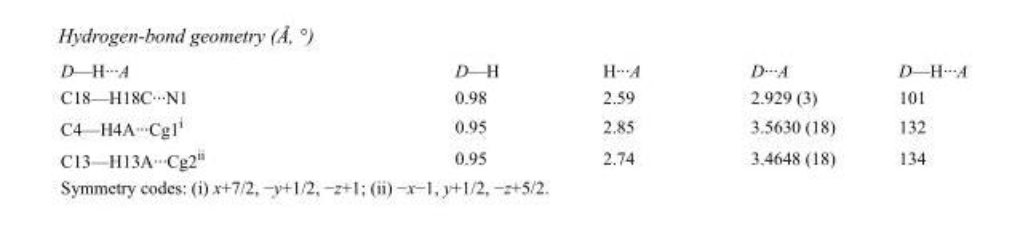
<table><tbody><tr><td>D—H···A</td><td>D—H</td><td>H···A</td><td>D···A</td><td>D—H···A</td></tr><tr><td>C18—H18C···N1</td><td>0.98</td><td>2.59</td><td>2.929 (3)</td><td>101</td></tr><tr><td>C4—H4A···Cg1<sup>i</sup></td><td>0.95</td><td>2.85</td><td>3.5630 (18)</td><td>132</td></tr><tr><td>C13—H13A···Cg2<sup>ii</sup></td><td>0.95</td><td>2.74</td><td>3.4648 (18)</td><td>134</td></tr></tbody></table>